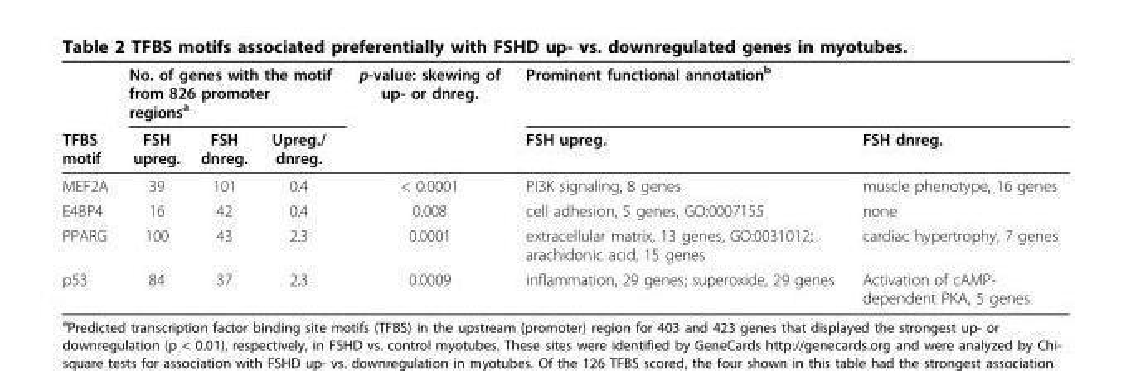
<table><thead><tr><td rowspan="2">TFBS motif</td><td colspan="3">No. of genes with the motif from 826 promoter regions<sup>a</sup></td><td rowspan="2">p-value: skewing of up- or dnreg.</td><td colspan="2">Prominent functional annotation<sup>b</sup></td></tr><tr><td>FSH upreg.</td><td>FSH dnreg.</td><td>Upreg./ dnreg.</td><td>FSH upreg.</td><td>FSH dnreg.</td></tr></thead><tbody><tr><td>MEF2A</td><td>39</td><td>101</td><td>0.4</td><td>&lt; 0.0001</td><td>PI3K signaling, 8 genes</td><td>muscle phenotype, 16 genes</td></tr><tr><td>E4BP4</td><td>16</td><td>42</td><td>0.4</td><td>0.008</td><td>cell adhesion, 5 genes, GO:0007155</td><td>none</td></tr><tr><td>PPARG</td><td>100</td><td>43</td><td>2.3</td><td>0.0001</td><td>extracellular matrix, 13 genes, GO:0031012; arachidonic acid, 15 genes</td><td>cardiac hypertrophy, 7 genes</td></tr><tr><td>p53</td><td>84</td><td>37</td><td>2.3</td><td>0.0009</td><td>inflammation, 29 genes; superoxide, 29 genes</td><td>Activation of cAMP- dependent PKA, 5 genes</td></tr></tbody></table>